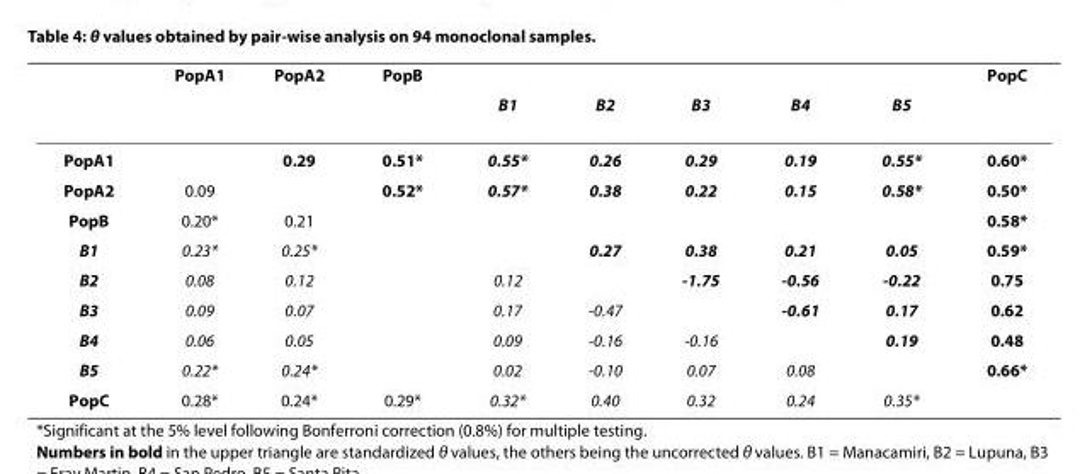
<table><thead><tr><td rowspan="2"></td><td rowspan="2">PopA1</td><td rowspan="2">PopA2</td><td rowspan="2">PopB</td><td rowspan="2">B1</td><td rowspan="2">B2</td><td rowspan="2">B3</td><td rowspan="2">B4</td><td rowspan="2">B5</td><td rowspan="2">PopC</td></tr><tr></tr></thead><tbody><tr><td>PopA1</td><td></td><td>0.29</td><td>0.51*</td><td>0.55*</td><td>0.26</td><td>0.29</td><td>0.19</td><td>0.55*</td><td>0.60*</td></tr><tr><td>PopA2</td><td>0.09</td><td></td><td>0.52*</td><td>0.57*</td><td>0.38</td><td>0.22</td><td>0.15</td><td>0.58*</td><td>0.50*</td></tr><tr><td>PopB</td><td>0.20*</td><td>0.21</td><td></td><td></td><td></td><td></td><td></td><td></td><td>0.58*</td></tr><tr><td>B1</td><td>0.23*</td><td>0.25*</td><td></td><td></td><td>0.27</td><td>0.38</td><td>0.21</td><td>0.05</td><td>0.59*</td></tr><tr><td>B2</td><td>0.08</td><td>0.12</td><td></td><td>0.12</td><td></td><td>-1.75</td><td>-0.56</td><td>-0.22</td><td>0.75</td></tr><tr><td>B3</td><td>0.09</td><td>0.07</td><td></td><td>0.17</td><td>-0.47</td><td></td><td>-0.61</td><td>0.17</td><td>0.62</td></tr><tr><td>B4</td><td>0.06</td><td>0.05</td><td></td><td>0.09</td><td>-0.16</td><td>-0.16</td><td></td><td>0.19</td><td>0.48</td></tr><tr><td>B5</td><td>0.22*</td><td>0.24*</td><td></td><td>0.02</td><td>-0.10</td><td>0.07</td><td>0.08</td><td></td><td>0.66*</td></tr><tr><td>PopC</td><td>0.28*</td><td>0.24*</td><td>0.29*</td><td>0.32*</td><td>0.40</td><td>0.32</td><td>0.24</td><td>0.35*</td><td></td></tr></tbody></table>